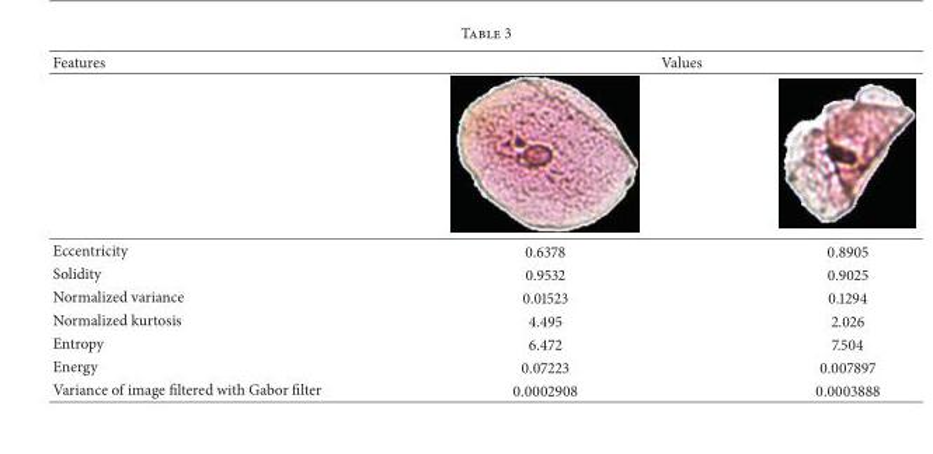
<table><thead><tr><td rowspan="2">Features Eccentricity</td><td colspan="2">Values</td></tr><tr><td>0.6378</td><td>0.8905</td></tr></thead><tbody><tr><td>Solidity</td><td>0.9532</td><td>0.9025</td></tr><tr><td>Normalized variance</td><td>0.01523</td><td>0.1294</td></tr><tr><td>Normalized kurtosis</td><td>4.495</td><td>2.026</td></tr><tr><td>Entropy</td><td>6.472</td><td>7.504</td></tr><tr><td>Energy</td><td>0.07223</td><td>0.007897</td></tr><tr><td>Variance of image filtered with Gabor filter</td><td>0.0002908</td><td>0.0003888</td></tr></tbody></table>